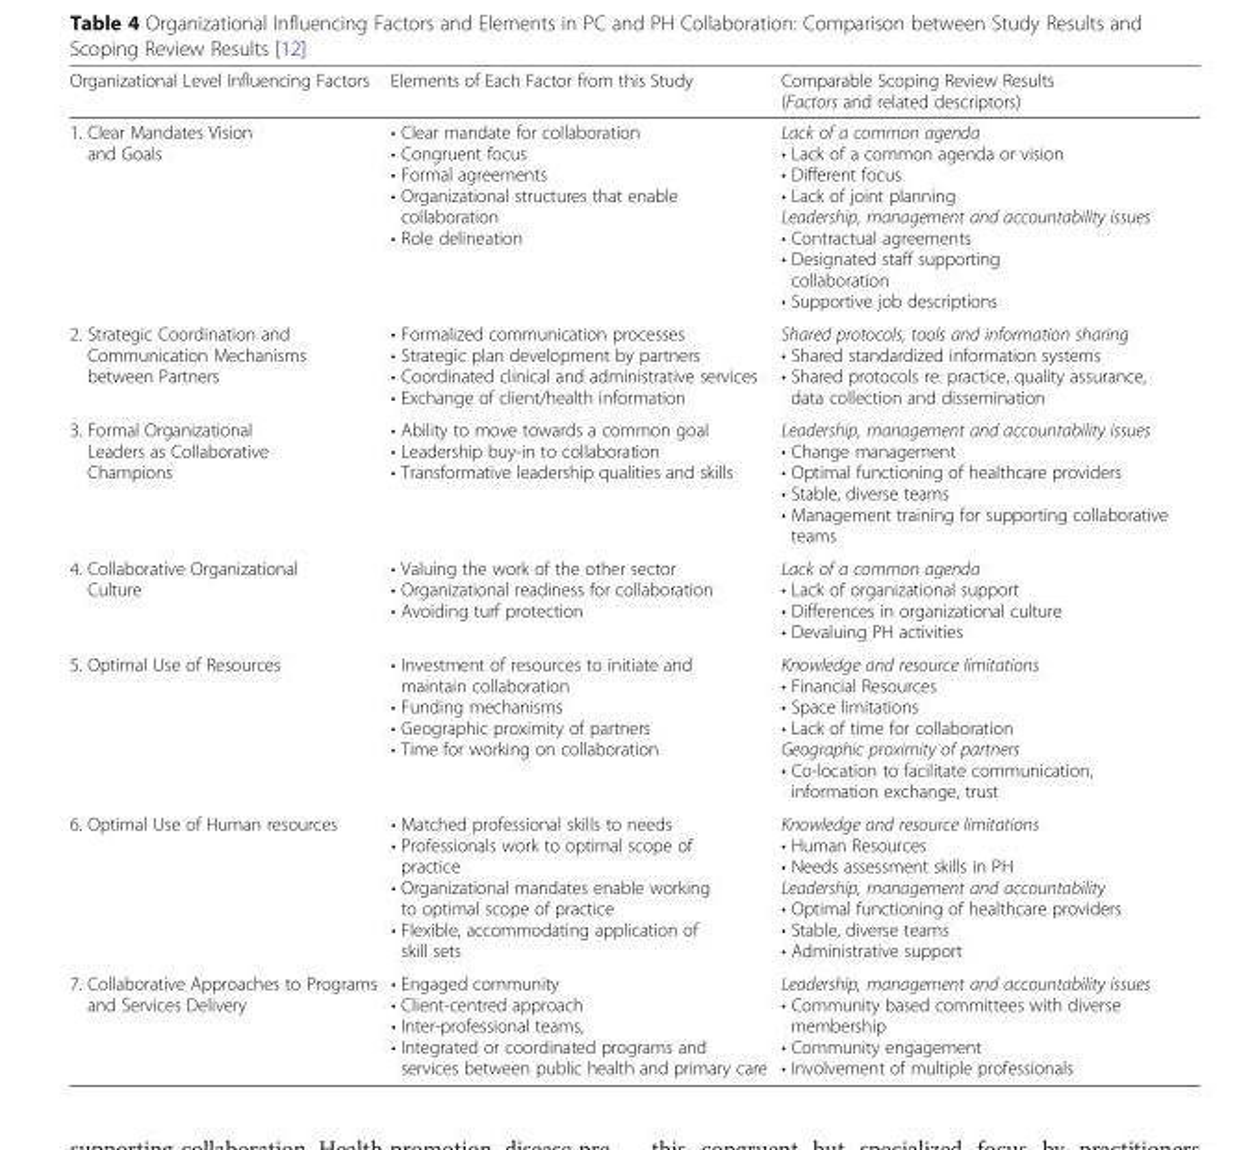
<table><thead><tr><td>Organizational Level Influencing Factors</td><td>Elements of Each Factor from this Study</td><td>Comparable Scoping Review Results (Factors and related descriptors)</td></tr></thead><tbody><tr><td>1. Clear Mandates Vision and Goals</td><td>• Clear mandate for collaboration • Congruent focus • Formal agreements • Organizational structures that enable collaboration • Role delineation</td><td>Lack of a common agenda • Lack of a common agenda or vision • Different focus • Lack of joint planning Leadership, management and accountability issues • Contractual agreements • Designated staff supporting collaboration • Supportive job descriptions</td></tr><tr><td>2. Strategic Coordination and Communication Mechanisms between Partners</td><td>• Formalized communication processes • Strategic plan development by partners • Coordinated clinical and administrative services • Exchange of client/health information</td><td>Shared protocols, tools and information sharing • Shared standardized information systems • Shared protocols re: practice, quality assurance, data collection and dissemination</td></tr><tr><td>3. Formal Organizational Leaders as Collaborative Champions</td><td>• Ability to move towards a common goal • Leadership buy-in to collaboration • Transformative leadership qualities and skills</td><td>Leadership, management and accountability issues • Change management • Optimal functioning of healthcare providers • Stable, diverse teams • Management training for supporting collaborative teams</td></tr><tr><td>4. Collaborative Organizational Culture</td><td>• Valuing the work of the other sector • Organizational readiness for collaboration • Avoiding turf protection</td><td>Lack of a common agenda • Lack of organizational support • Differences in organizational culture • Devaluing PH activities</td></tr><tr><td>5. Optimal Use of Resources</td><td>• Investment of resources to initiate and maintain collaboration • Funding mechanisms • Geographic proximity of partners • Time for working on collaboration</td><td>Knowledge and resource limitations • Financial Resources • Space limitations • Lack of time for collaboration Geographic proximity of partners • Co-location to facilitate communication, information exchange, trust</td></tr><tr><td>6. Optimal Use of Human resources</td><td>• Matched professional skills to needs • Professionals work to optimal scope of practice • Organizational mandates enable working to optimal scope of practice • Flexible, accommodating application of skill sets</td><td>Knowledge and resource limitations • Human Resources • Needs assessment skills in PH Leadership, management and accountability • Optimal functioning of healthcare providers • Stable, diverse teams • Administrative support</td></tr><tr><td>7. Collaborative Approaches to Programs and Services Delivery</td><td>• Engaged community • Client-centred approach • Inter-professional teams, • Integrated or coordinated programs and services between public health and primary care</td><td>Leadership, management and accountability issues • Community based committees with diverse membership • Community engagement • Involvement of multiple professionals</td></tr></tbody></table>